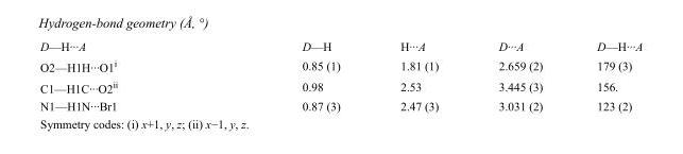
<table><tbody><tr><td>D—H···A</td><td>D—H</td><td>H···A</td><td>D···A</td><td>D—H···A</td></tr><tr><td>O2—H1H···O1<sup>i</sup></td><td>0.85 (1)</td><td>1.81 (1)</td><td>2.659 (2)</td><td>179 (3)</td></tr><tr><td>C1—H1C···O2<sup>ii</sup></td><td>0.98</td><td>2.53</td><td>3.445 (3)</td><td>156.</td></tr><tr><td>N1—H1N···Br1</td><td>0.87 (3)</td><td>2.47 (3)</td><td>3.031 (2)</td><td>123 (2)</td></tr></tbody></table>